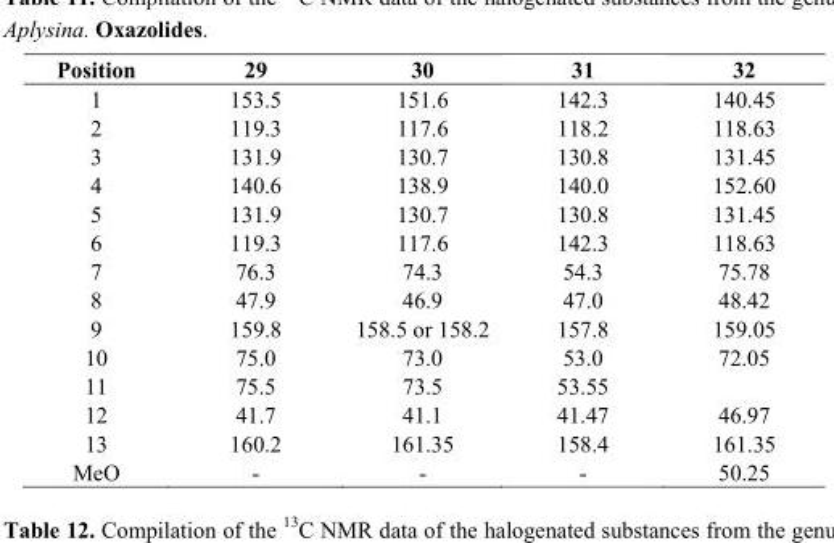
<table><thead><tr><td>Position</td><td>29</td><td>30</td><td>31</td><td>32</td></tr></thead><tbody><tr><td>1</td><td>153.5</td><td>151.6</td><td>142.3</td><td>140.45</td></tr><tr><td>2</td><td>119.3</td><td>117.6</td><td>118.2</td><td>118.63</td></tr><tr><td>3</td><td>131.9</td><td>130.7</td><td>130.8</td><td>131.45</td></tr><tr><td>4</td><td>140.6</td><td>138.9</td><td>140.0</td><td>152.60</td></tr><tr><td>5</td><td>131.9</td><td>130.7</td><td>130.8</td><td>131.45</td></tr><tr><td>6</td><td>119.3</td><td>117.6</td><td>142.3</td><td>118.63</td></tr><tr><td>7</td><td>76.3</td><td>74.3</td><td>54.3</td><td>75.78</td></tr><tr><td>8</td><td>47.9</td><td>46.9</td><td>47.0</td><td>48.42</td></tr><tr><td>9</td><td>159.8</td><td>158.5 or 158.2</td><td>157.8</td><td>159.05</td></tr><tr><td>10</td><td>75.0</td><td>73.0</td><td>53.0</td><td>72.05</td></tr><tr><td>11</td><td>75.5</td><td>73.5</td><td>53.55</td><td></td></tr><tr><td>12</td><td>41.7</td><td>41.1</td><td>41.47</td><td>46.97</td></tr><tr><td>13</td><td>160.2</td><td>161.35</td><td>158.4</td><td>161.35</td></tr><tr><td>MeO</td><td>-</td><td>-</td><td>-</td><td>50.25</td></tr></tbody></table>